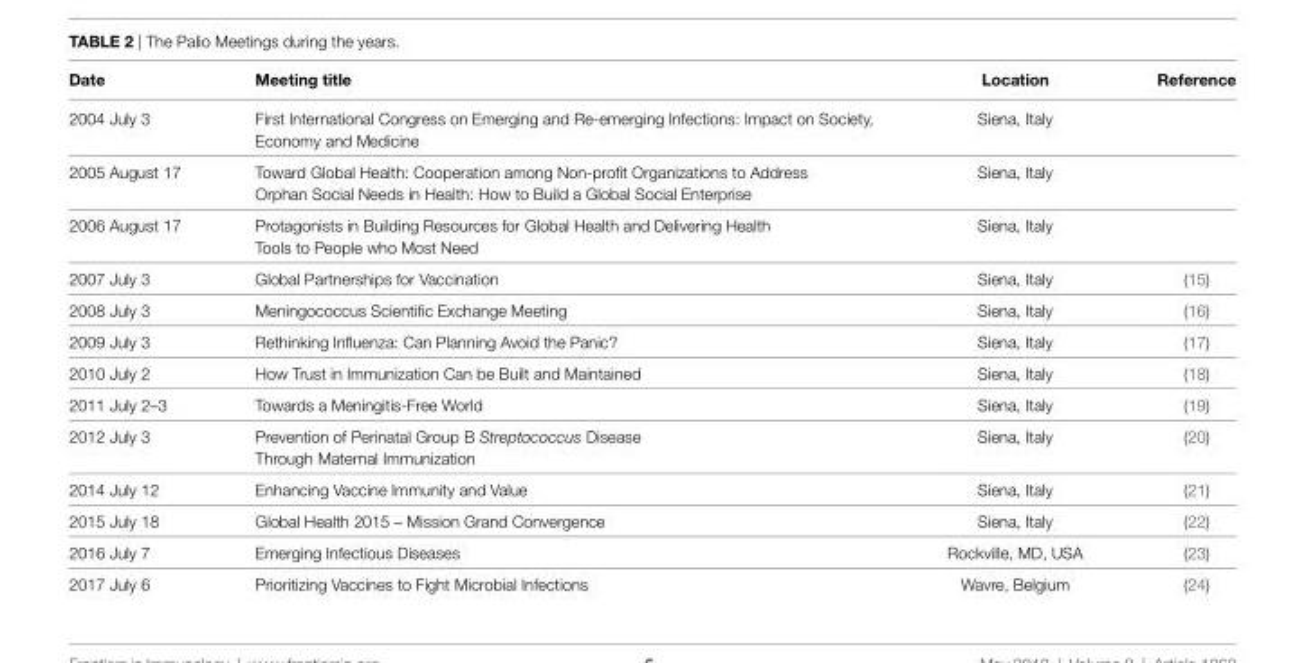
<table><thead><tr><td>Date</td><td>Meeting title</td><td>Location</td><td>Reference</td></tr></thead><tbody><tr><td>2004 July 3</td><td>First International Congress on Emerging and Re-emerging Infections: Impact on Society, Economy and Medicine</td><td>Siena, Italy</td><td></td></tr><tr><td>2005 August 17</td><td>Toward Global Health: Cooperation among Non-profit Organizations to Address Orphan Social Needs in Health: How to Build a Global Social Enterprise</td><td>Siena, Italy</td><td></td></tr><tr><td>2006 August 17</td><td>Protagonists in Building Resources for Global Health and Delivering Health Tools to People who Most Need</td><td>Siena, Italy</td><td></td></tr><tr><td>2007 July 3</td><td>Global Partnerships for Vaccination</td><td>Siena, Italy</td><td>(15)</td></tr><tr><td>2008 July 3</td><td>Meningococcus Scientific Exchange Meeting</td><td>Siena, Italy</td><td>(16)</td></tr><tr><td>2009 July 3</td><td>Rethinking Influenza: Can Planning Avoid the Panic?</td><td>Siena, Italy</td><td>(17)</td></tr><tr><td>2010 July 2</td><td>How Trust in Immunization Can be Built and Maintained</td><td>Siena, Italy</td><td>(18)</td></tr><tr><td>2011 July 2–3</td><td>Towards a Meningitis-Free World</td><td>Siena, Italy</td><td>(19)</td></tr><tr><td>2012 July 3</td><td>Prevention of Perinatal Group B Streptococcus Disease Through Maternal Immunization</td><td>Siena, Italy</td><td>(20)</td></tr><tr><td>2014 July 12</td><td>Enhancing Vaccine Immunity and Value</td><td>Siena, Italy</td><td>(21)</td></tr><tr><td>2015 July 18</td><td>Global Health 2015 – Mission Grand Convergence</td><td>Siena, Italy</td><td>(22)</td></tr><tr><td>2016 July 7</td><td>Emerging Infectious Diseases</td><td>Rockville, MD, USA</td><td>(23)</td></tr><tr><td>2017 July 6</td><td>Prioritizing Vaccines to Fight Microbial Infections</td><td>Wavre, Belgium</td><td>(24)</td></tr></tbody></table>